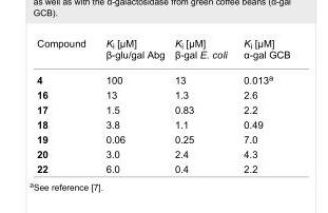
<table><tbody><tr><td>Compound</td><td>K<sub>i</sub> [µM] β-glu/gal Abg</td><td>K<sub>i</sub> [µM] β-gal E. coli</td><td>K<sub>i</sub> [µM] α-gal GCB</td></tr><tr><td>4</td><td>100</td><td>13</td><td>0.013<sup>a</sup></td></tr><tr><td>16</td><td>13</td><td>1.3</td><td>2.6</td></tr><tr><td>17</td><td>1.5</td><td>0.83</td><td>2.2</td></tr><tr><td>18</td><td>3.8</td><td>1.1</td><td>0.49</td></tr><tr><td>19</td><td>0.06</td><td>0.25</td><td>7.0</td></tr><tr><td>20</td><td>3.0</td><td>2.4</td><td>4.3</td></tr><tr><td>22</td><td>6.0</td><td>0.4</td><td>2.2</td></tr></tbody></table>